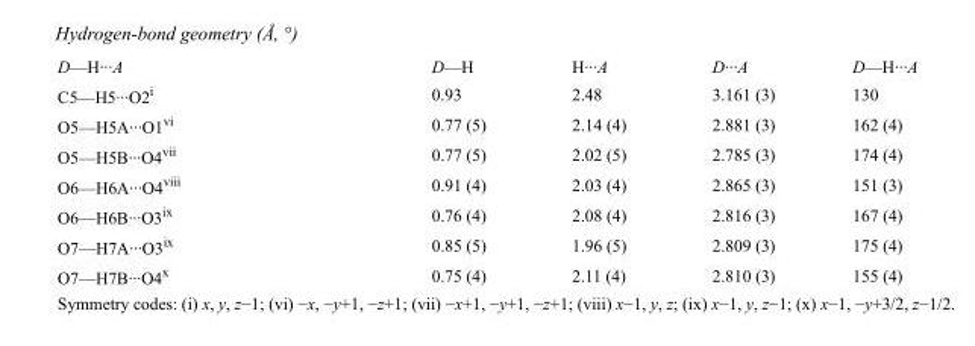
<table><tbody><tr><td>D—H···A</td><td>D—H</td><td>H···A</td><td>D···A</td><td>D—H···A</td></tr><tr><td>C5—H5···O2<sup>i</sup></td><td>0.93</td><td>2.48</td><td>3.161 (3)</td><td>130</td></tr><tr><td>O5—H5A···O1<sup>vi</sup></td><td>0.77 (5)</td><td>2.14 (4)</td><td>2.881 (3)</td><td>162 (4)</td></tr><tr><td>O5—H5B···O4<sup>vii</sup></td><td>0.77 (5)</td><td>2.02 (5)</td><td>2.785 (3)</td><td>174 (4)</td></tr><tr><td>O6—H6A···O4<sup>viii</sup></td><td>0.91 (4)</td><td>2.03 (4)</td><td>2.865 (3)</td><td>151 (3)</td></tr><tr><td>O6—H6B···O3<sup>ix</sup></td><td>0.76 (4)</td><td>2.08 (4)</td><td>2.816 (3)</td><td>167 (4)</td></tr><tr><td>O7—H7A···O3<sup>ix</sup></td><td>0.85 (5)</td><td>1.96 (5)</td><td>2.809 (3)</td><td>175 (4)</td></tr><tr><td>O7—H7B···O4<sup>x</sup></td><td>0.75 (4)</td><td>2.11 (4)</td><td>2.810 (3)</td><td>155 (4)</td></tr></tbody></table>